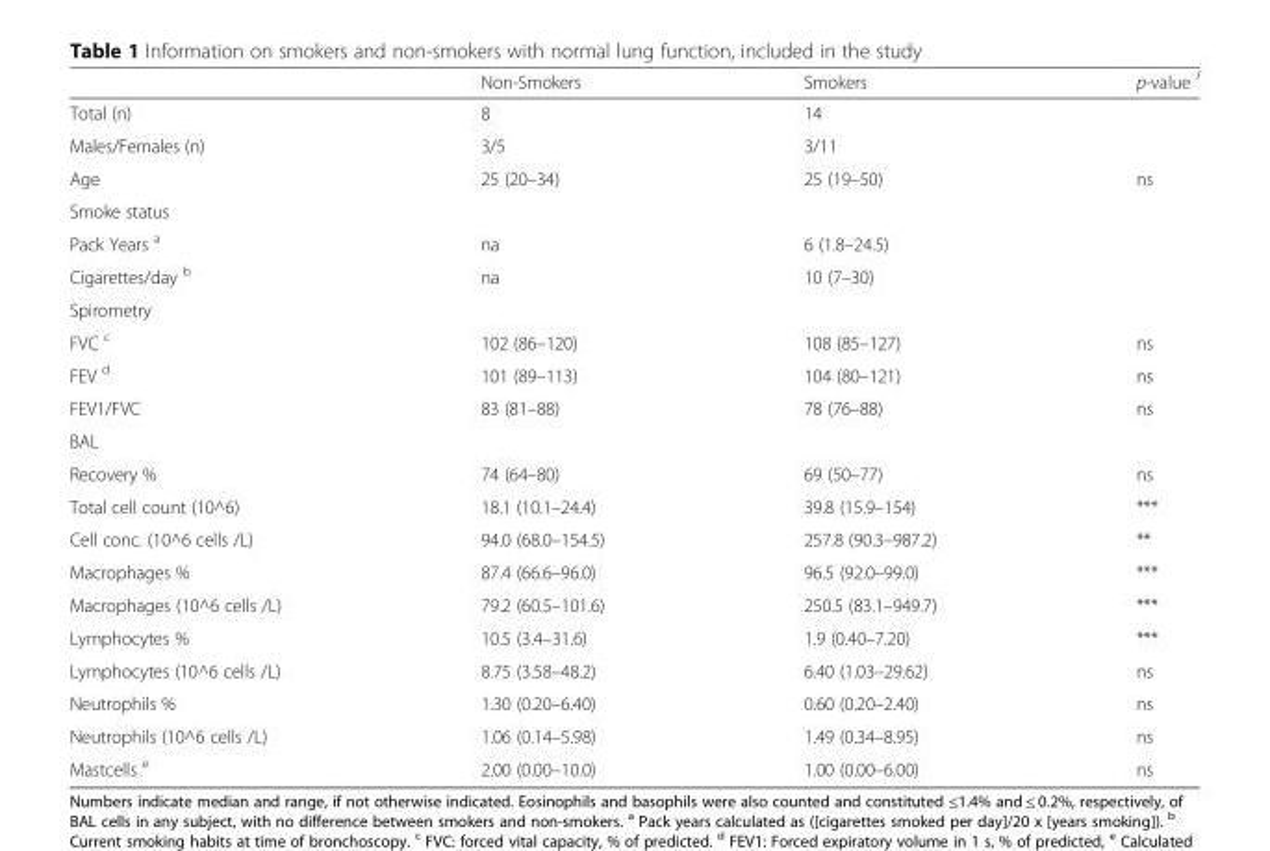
<table><thead><tr><td></td><td>Non-Smokers</td><td>Smokers</td><td>p-value <sup>f</sup></td></tr></thead><tbody><tr><td>Total (n)</td><td>8</td><td>14</td><td></td></tr><tr><td>Males/Females (n)</td><td>3/5</td><td>3/11</td><td></td></tr><tr><td>Age</td><td>25 (20–34)</td><td>25 (19–50)</td><td>ns</td></tr><tr><td colspan="4">Smoke status</td></tr><tr><td>Pack Years <sup>a</sup></td><td>na</td><td>6 (1.8–24.5)</td><td></td></tr><tr><td>Cigarettes/day <sup>b</sup></td><td>na</td><td>10 (7–30)</td><td></td></tr><tr><td colspan="4">Spirometry</td></tr><tr><td>FVC <sup>c</sup></td><td>102 (86–120)</td><td>108 (85–127)</td><td>ns</td></tr><tr><td>FEV <sup>d</sup></td><td>101 (89–113)</td><td>104 (80–121)</td><td>ns</td></tr><tr><td>FEV1/FVC</td><td>83 (81–88)</td><td>78 (76–88)</td><td>ns</td></tr><tr><td colspan="4">BAL</td></tr><tr><td>Recovery %</td><td>74 (64–80)</td><td>69 (50–77)</td><td>ns</td></tr><tr><td>Total cell count (10^6)</td><td>18.1 (10.1–24.4)</td><td>39.8 (15.9–154)</td><td>***</td></tr><tr><td>Cell conc. (10^6 cells /L)</td><td>94.0 (68.0–154.5)</td><td>257.8 (90.3–987.2)</td><td>**</td></tr><tr><td>Macrophages %</td><td>87.4 (66.6–96.0)</td><td>96.5 (92.0–99.0)</td><td>***</td></tr><tr><td>Macrophages (10^6 cells /L)</td><td>79.2 (60.5–101.6)</td><td>250.5 (83.1–949.7)</td><td>***</td></tr><tr><td>Lymphocytes %</td><td>10.5 (3.4–31.6)</td><td>1.9 (0.40–7.20)</td><td>***</td></tr><tr><td>Lymphocytes (10^6 cells /L)</td><td>8.75 (3.58–48.2)</td><td>6.40 (1.03–29.62)</td><td>ns</td></tr><tr><td>Neutrophils %</td><td>1.30 (0.20–6.40)</td><td>0.60 (0.20–2.40)</td><td>ns</td></tr><tr><td>Neutrophils (10^6 cells /L)</td><td>1.06 (0.14–5.98)</td><td>1.49 (0.34–8.95)</td><td>ns</td></tr><tr><td>Mastcells <sup>e</sup></td><td>2.00 (0.00–10.0)</td><td>1.00 (0.00–6.00)</td><td>ns</td></tr></tbody></table>